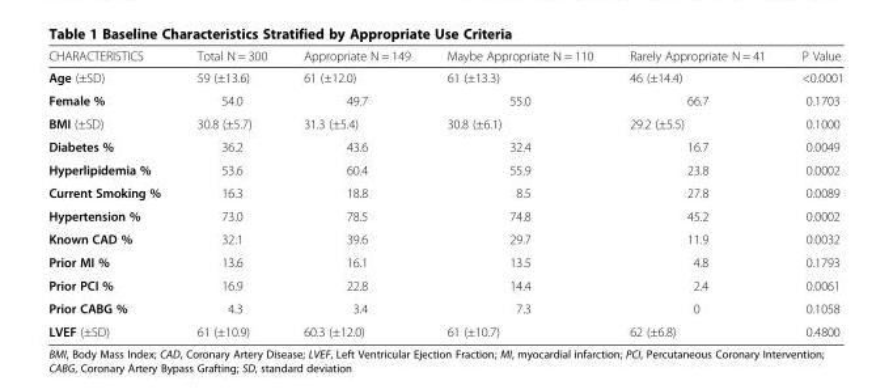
<table><thead><tr><td>CHARACTERISTICS</td><td>Total N = 300</td><td>Appropriate N = 149</td><td>Maybe Appropriate N = 110</td><td>Rarely Appropriate N = 41</td><td>P Value</td></tr></thead><tbody><tr><td>Age (±SD)</td><td>59 (±13.6)</td><td>61 (±12.0)</td><td>61 (±13.3)</td><td>46 (±14.4)</td><td>&lt;0.0001</td></tr><tr><td>Female %</td><td>54.0</td><td>49.7</td><td>55.0</td><td>66.7</td><td>0.1703</td></tr><tr><td>BMI (±SD)</td><td>30.8 (±5.7)</td><td>31.3 (±5.4)</td><td>30.8 (±6.1)</td><td>29.2 (±5.5)</td><td>0.1000</td></tr><tr><td>Diabetes %</td><td>36.2</td><td>43.6</td><td>32.4</td><td>16.7</td><td>0.0049</td></tr><tr><td>Hyperlipidemia %</td><td>53.6</td><td>60.4</td><td>55.9</td><td>23.8</td><td>0.0002</td></tr><tr><td>Current Smoking %</td><td>16.3</td><td>18.8</td><td>8.5</td><td>27.8</td><td>0.0089</td></tr><tr><td>Hypertension %</td><td>73.0</td><td>78.5</td><td>74.8</td><td>45.2</td><td>0.0002</td></tr><tr><td>Known CAD %</td><td>32.1</td><td>39.6</td><td>29.7</td><td>11.9</td><td>0.0032</td></tr><tr><td>Prior MI %</td><td>13.6</td><td>16.1</td><td>13.5</td><td>4.8</td><td>0.1793</td></tr><tr><td>Prior PCI %</td><td>16.9</td><td>22.8</td><td>14.4</td><td>2.4</td><td>0.0061</td></tr><tr><td>Prior CABG %</td><td>4.3</td><td>3.4</td><td>7.3</td><td>0</td><td>0.1058</td></tr><tr><td>LVEF (±SD)</td><td>61 (±10.9)</td><td>60.3 (±12.0)</td><td>61 (±10.7)</td><td>62 (±6.8)</td><td>0.4800</td></tr></tbody></table>